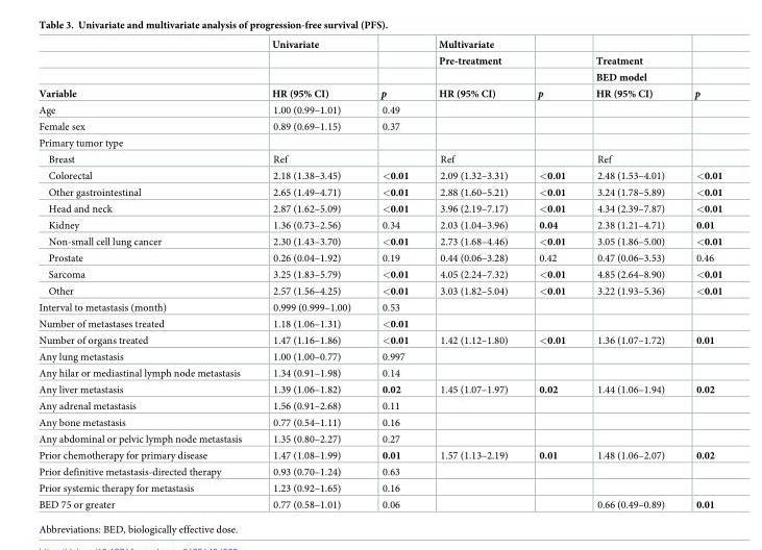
<table><thead><tr><td rowspan="4">Variable</td><td rowspan="4">Univariate HR (95% CI)</td><td rowspan="4">p</td><td rowspan="4">Multivariate Pre-treatment HR (95% CI)</td><td rowspan="4">p</td><td rowspan="4">Treatment BED model HR (95% CI)</td><td rowspan="4">p</td></tr><tr></tr><tr></tr><tr></tr></thead><tbody><tr><td>Age</td><td>1.00 (0.99–1.01)</td><td>0.49</td><td></td><td></td><td></td><td></td></tr><tr><td>Female sex</td><td>0.89 (0.69–1.15)</td><td>0.37</td><td></td><td></td><td></td><td></td></tr><tr><td colspan="7">Primary tumor type</td></tr><tr><td>Breast</td><td>Ref</td><td></td><td>Ref</td><td></td><td>Ref</td><td></td></tr><tr><td>Colorectal</td><td>2.18 (1.38–3.45)</td><td>&lt;0.01</td><td>2.09 (1.32–3.31)</td><td>&lt;0.01</td><td>2.48 (1.53–4.01)</td><td>&lt;0.01</td></tr><tr><td>Other gastrointestinal</td><td>2.65 (1.49–4.71)</td><td>&lt;0.01</td><td>2.88 (1.60–5.21)</td><td>&lt;0.01</td><td>3.24 (1.78–5.89)</td><td>&lt;0.01</td></tr><tr><td>Head and neck</td><td>2.87 (1.62–5.09)</td><td>&lt;0.01</td><td>3.96 (2.19–7.17)</td><td>&lt;0.01</td><td>4.34 (2.39–7.87)</td><td>&lt;0.01</td></tr><tr><td>Kidney</td><td>1.36 (0.73–2.56)</td><td>0.34</td><td>2.03 (1.04–3.96)</td><td>0.04</td><td>2.38 (1.21–4.71)</td><td>0.01</td></tr><tr><td>Non-small cell lung cancer</td><td>2.30 (1.43–3.70)</td><td>&lt;0.01</td><td>2.73 (1.68–4.46)</td><td>&lt;0.01</td><td>3.05 (1.86–5.00)</td><td>&lt;0.01</td></tr><tr><td>Prostate</td><td>0.26 (0.04–1.92)</td><td>0.19</td><td>0.44 (0.06–3.28)</td><td>0.42</td><td>0.47 (0.06–3.53)</td><td>0.46</td></tr><tr><td>Sarcoma</td><td>3.25 (1.83–5.79)</td><td>&lt;0.01</td><td>4.05 (2.24–7.32)</td><td>&lt;0.01</td><td>4.85 (2.64–8.90)</td><td>&lt;0.01</td></tr><tr><td>Other</td><td>2.57 (1.56–4.25)</td><td>&lt;0.01</td><td>3.03 (1.82–5.04)</td><td>&lt;0.01</td><td>3.22 (1.93–5.36)</td><td>&lt;0.01</td></tr><tr><td>Interval to metastasis (month)</td><td>0.999 (0.999–1.00)</td><td>0.53</td><td></td><td></td><td></td><td></td></tr><tr><td>Number of metastases treated</td><td>1.18 (1.06–1.31)</td><td>&lt;0.01</td><td></td><td></td><td></td><td></td></tr><tr><td>Number of organs treated</td><td>1.47 (1.16–1.86)</td><td>&lt;0.01</td><td>1.42 (1.12–1.80)</td><td>&lt;0.01</td><td>1.36 (1.07–1.72)</td><td>0.01</td></tr><tr><td>Any lung metastasis</td><td>1.00 (1.00–0.77)</td><td>0.997</td><td></td><td></td><td></td><td></td></tr><tr><td>Any hilar or mediastinal lymph node metastasis</td><td>1.34 (0.91–1.98)</td><td>0.14</td><td></td><td></td><td></td><td></td></tr><tr><td>Any liver metastasis</td><td>1.39 (1.06–1.82)</td><td>0.02</td><td>1.45 (1.07–1.97)</td><td>0.02</td><td>1.44 (1.06–1.94)</td><td>0.02</td></tr><tr><td>Any adrenal metastasis</td><td>1.56 (0.91–2.68)</td><td>0.11</td><td></td><td></td><td></td><td></td></tr><tr><td>Any bone metastasis</td><td>0.77 (0.54–1.11)</td><td>0.16</td><td></td><td></td><td></td><td></td></tr><tr><td>Any abdominal or pelvic lymph node metastasis</td><td>1.35 (0.80–2.27)</td><td>0.27</td><td></td><td></td><td></td><td></td></tr><tr><td>Prior chemotherapy for primary disease</td><td>1.47 (1.08–1.99)</td><td>0.01</td><td>1.57 (1.13–2.19)</td><td>0.01</td><td>1.48 (1.06–2.07)</td><td>0.02</td></tr><tr><td>Prior definitive metastasis-directed therapy</td><td>0.93 (0.70–1.24)</td><td>0.63</td><td></td><td></td><td></td><td></td></tr><tr><td>Prior systemic therapy for metastasis</td><td>1.23 (0.92–1.65)</td><td>0.16</td><td></td><td></td><td></td><td></td></tr><tr><td>BED 75 or greater</td><td>0.77 (0.58–1.01)</td><td>0.06</td><td></td><td></td><td>0.66 (0.49–0.89)</td><td>0.01</td></tr></tbody></table>